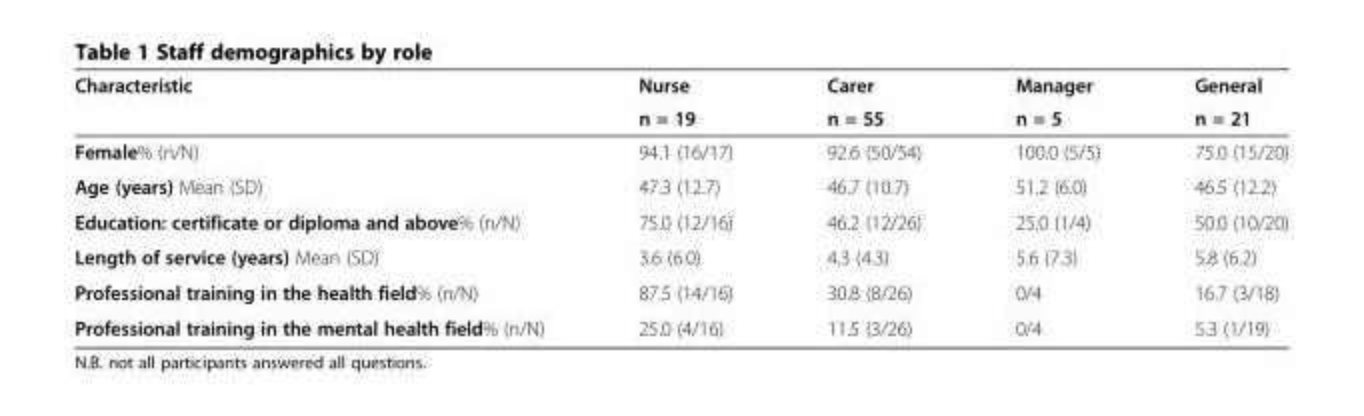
<table><thead><tr><td rowspan="2">Characteristic</td><td rowspan="2">Nurse n = 19</td><td rowspan="2">Carer n = 55</td><td rowspan="2">Manager n = 5</td><td rowspan="2">General n = 21</td></tr><tr></tr></thead><tbody><tr><td>Female% (n/N)</td><td>94.1 (16/17)</td><td>92.6 (50/54)</td><td>100.0 (5/5)</td><td>75.0 (15/20)</td></tr><tr><td>Age (years) Mean (SD)</td><td>47.3 (12.7)</td><td>46.7 (10.7)</td><td>51.2 (6.0)</td><td>46.5 (12.2)</td></tr><tr><td>Education: certificate or diploma and above% (n/N)</td><td>75.0 (12/16)</td><td>46.2 (12/26)</td><td>25.0 (1/4)</td><td>50.0 (10/20)</td></tr><tr><td>Length of service (years) Mean (SD)</td><td>3.6 (6.0)</td><td>4.3 (4.3)</td><td>5.6 (7.3)</td><td>5.8 (6.2)</td></tr><tr><td>Professional training in the health field% (n/N)</td><td>87.5 (14/16)</td><td>30.8 (8/26)</td><td>0/4</td><td>16.7 (3/18)</td></tr><tr><td>Professional training in the mental health field% (n/N)</td><td>25.0 (4/16)</td><td>11.5 (3/26)</td><td>0/4</td><td>5.3 (1/19)</td></tr></tbody></table>